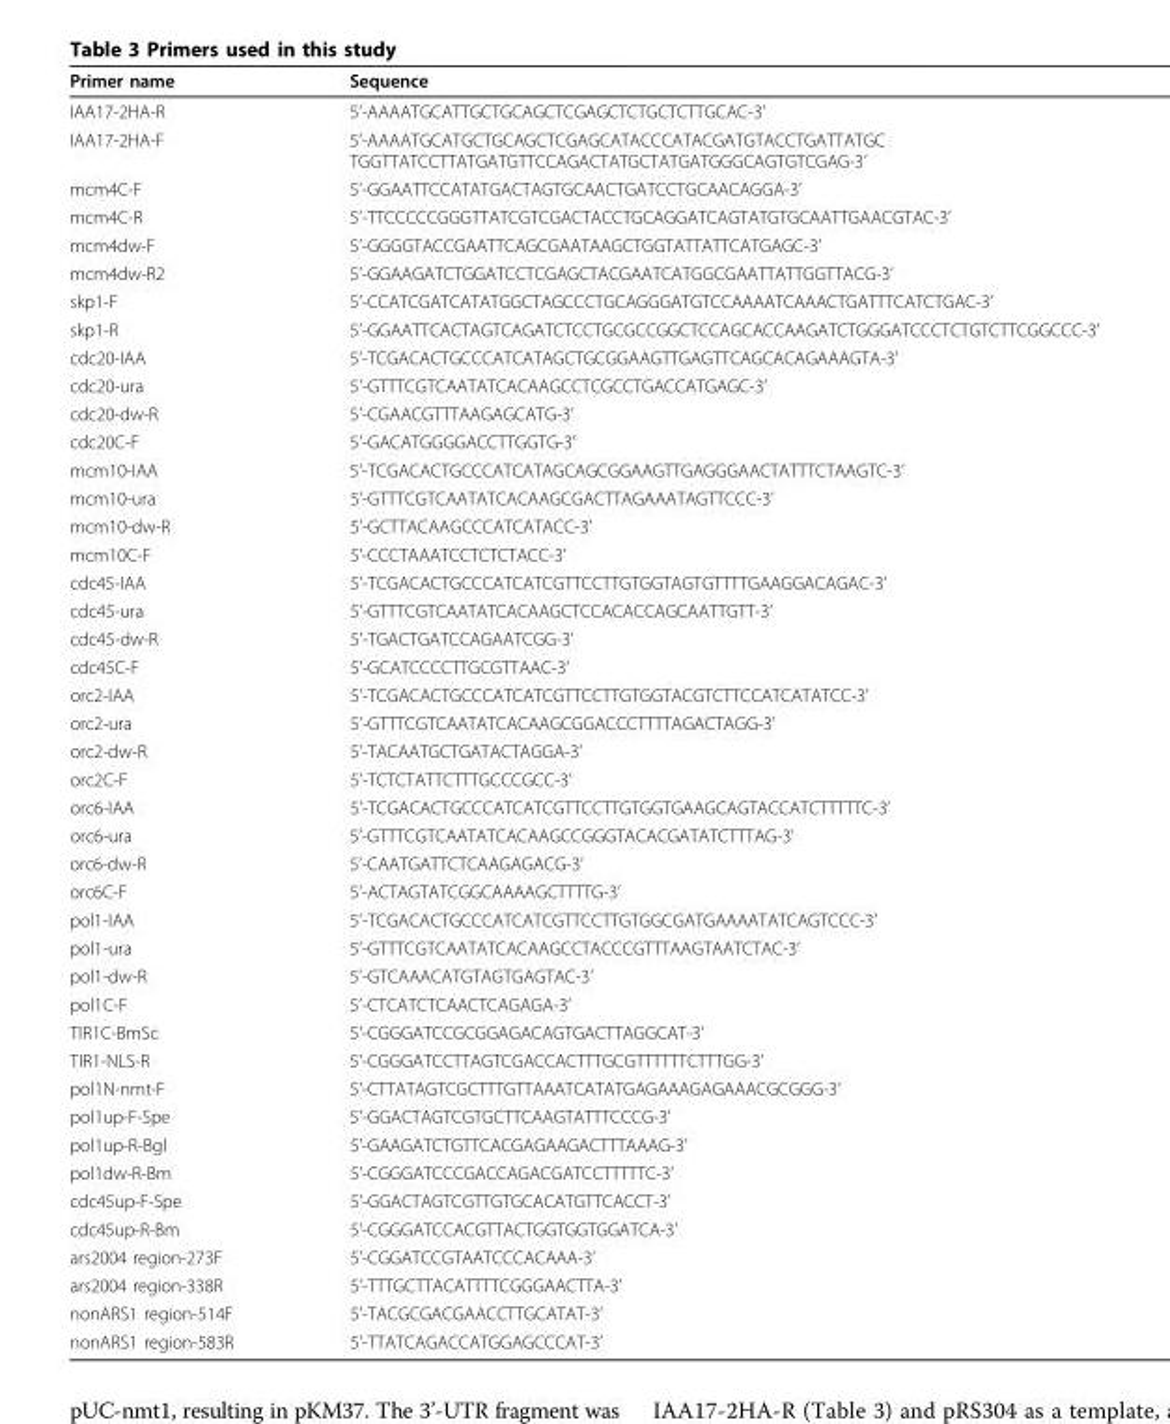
<table><thead><tr><td>Primer name</td><td>Sequence</td></tr></thead><tbody><tr><td>IAA17-2HA-R</td><td>5’-AAAATGCATTGCTGCAGCTCGAGCTCTGCTCTTGCAC-3’</td></tr><tr><td>IAA17-2HA-F</td><td>5’-AAAATGCATGCTGCAGCTCGAGCATACCCATACGATGTACCTGATTATGC TGGTTATCCTTATGATGTTCCAGACTATGCTATGATGGGCAGTGTCGAG-3’</td></tr><tr><td>mcm4C-F</td><td>5’-GGAATTCCATATGACTAGTGCAACTGATCCTGCAACAGGA-3’</td></tr><tr><td>mcm4C-R</td><td>5’-TTCCCCCGGGTTATCGTCGACTACCTGCAGGATCAGTATGTGCAATTGAACGTAC-3’</td></tr><tr><td>mcm4dw-F</td><td>5’-GGGGTACCGAATTCAGCGAATAAGCTGGTATTATTCATGAGC-3’</td></tr><tr><td>mcm4dw-R2</td><td>5’-GGAAGATCTGGATCCTCGAGCTACGAATCATGGCGAATTATTGGTTACG-3’</td></tr><tr><td>skp1-F</td><td>5’-CCATCGATCATATGGCTAGCCCTGCAGGGATGTCCAAAATCAAACTGATTTCATCTGAC-3’</td></tr><tr><td>skp1-R</td><td>5’-GGAATTCACTAGTCAGATCTCCTGCGCCGGCTCCAGCACCAAGATCTGGGATCCCTCTGTCTTCGGCCC-3’</td></tr><tr><td>cdc20-IAA</td><td>5’-TCGACACTGCCCATCATAGCTGCGGAAGTTGAGTTCAGCACAGAAAGTA-3’</td></tr><tr><td>cdc20-ura</td><td>5’-GTTTCGTCAATATCACAAGCCTCGCCTGACCATGAGC-3’</td></tr><tr><td>cdc20-dw-R</td><td>5’-CGAACGTTTAAGAGCATG-3’</td></tr><tr><td>cdc20C-F</td><td>5’-GACATGGGGACCTTGGTG-3’</td></tr><tr><td>mcm10-IAA</td><td>5’-TCGACACTGCCCATCATAGCAGCGGAAGTTGAGGGAACTATTTCTAAGTC-3’</td></tr><tr><td>mcm10-ura</td><td>5’-GTTTCGTCAATATCACAAGCGACTTAGAAATAGTTCCC-3’</td></tr><tr><td>mcm10-dw-R</td><td>5’-GCTTACAAGCCCATCATACC-3’</td></tr><tr><td>mcm10C-F</td><td>5’-CCCTAAATCCTCTCTACC-3’</td></tr><tr><td>cdc45-IAA</td><td>5’-TCGACACTGCCCATCATCGTTCCTTGTGGTAGTGTTTTGAAGGACAGAC-3’</td></tr><tr><td>cdc45-ura</td><td>5’-GTTTCGTCAATATCACAAGCTCCACACCAGCAATTGTT-3’</td></tr><tr><td>cdc45-dw-R</td><td>5’-TGACTGATCCAGAATCGG-3’</td></tr><tr><td>cdc45C-F</td><td>5’-GCATCCCCTTGCGTTAAC-3’</td></tr><tr><td>orc2-IAA</td><td>5’-TCGACACTGCCCATCATCGTTCCTTGTGGTACGTCTTCCATCATATCC-3’</td></tr><tr><td>orc2-ura</td><td>5’-GTTTCGTCAATATCACAAGCGGACCCTTTTAGACTAGG-3’</td></tr><tr><td>orc2-dw-R</td><td>5’-TACAATGCTGATACTAGGA-3’</td></tr><tr><td>orc2C-F</td><td>5’-TCTCTATTCTTTGCCCGCC-3’</td></tr><tr><td>orc6-IAA</td><td>5’-TCGACACTGCCCATCATCGTTCCTTGTGGTGAAGCAGTACCATCTTTTTC-3’</td></tr><tr><td>orc6-ura</td><td>5’-GTTTCGTCAATATCACAAGCCGGGTACACGATATCTTTAG-3’</td></tr><tr><td>orc6-dw-R</td><td>5’-CAATGATTCTCAAGAGACG-3’</td></tr><tr><td>orc6C-F</td><td>5’-ACTAGTATCGGCAAAAGCTTTTG-3’</td></tr><tr><td>pol1-IAA</td><td>5’-TCGACACTGCCCATCATCGTTCCTTGTGGCGATGAAAATATCAGTCCC-3’</td></tr><tr><td>pol1-ura</td><td>5’-GTTTCGTCAATATCACAAGCCTACCCGTTTAAGTAATCTAC-3’</td></tr><tr><td>pol1-dw-R</td><td>5’-GTCAAACATGTAGTGAGTAC-3’</td></tr><tr><td>pol1C-F</td><td>5’-CTCATCTCAACTCAGAGA-3’</td></tr><tr><td>TIR1C-BmSc</td><td>5’-CGGGATCCGCGGAGACAGTGACTTAGGCAT-3’</td></tr><tr><td>TIR1-NLS-R</td><td>5’-CGGGATCCTTAGTCGACCACTTTGCGTTTTTTCTTTGG-3’</td></tr><tr><td>pol1N-nmt-F</td><td>5’-CTTATAGTCGCTTTGTTAAATCATATGAGAAAGAGAAACGCGGG-3’</td></tr><tr><td>pol1up-F-Spe</td><td>5’-GGACTAGTCGTGCTTCAAGTATTTCCCG-3’</td></tr><tr><td>pol1up-R-Bgl</td><td>5’-GAAGATCTGTTCACGAGAAGACTTTAAAG-3’</td></tr><tr><td>pol1dw-R-Bm</td><td>5’-CGGGATCCCGACCAGACGATCCTTTTTC-3’</td></tr><tr><td>cdc45up-F-Spe</td><td>5’-GGACTAGTCGTTGTGCACATGTTCACCT-3’</td></tr><tr><td>cdc45up-R-Bm</td><td>5’-CGGGATCCACGTTACTGGTGGTGGATCA-3’</td></tr><tr><td>ars2004 region-273F</td><td>5’-CGGATCCGTAATCCCACAAA-3’</td></tr><tr><td>ars2004 region-338R</td><td>5’-TTTGCTTACATTTTCGGGAACTTA-3’</td></tr><tr><td>nonARS1 region-514F</td><td>5’-TACGCGACGAACCTTGCATAT-3’</td></tr><tr><td>nonARS1 region-583R</td><td>5’-TTATCAGACCATGGAGCCCAT-3’</td></tr></tbody></table>